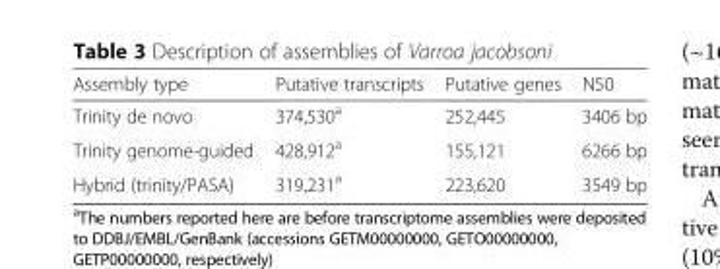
<table><thead><tr><td>Assembly type</td><td>Putative transcripts</td><td>Putative genes</td><td>N50</td></tr></thead><tbody><tr><td>Trinity de novo</td><td>374,530<sup>a</sup></td><td>252,445</td><td>3406 bp</td></tr><tr><td>Trinity genome-guided</td><td>428,912<sup>a</sup></td><td>155,121</td><td>6266 bp</td></tr><tr><td>Hybrid (trinity/PASA)</td><td>319,231<sup>a</sup></td><td>223,620</td><td>3549 bp</td></tr></tbody></table>